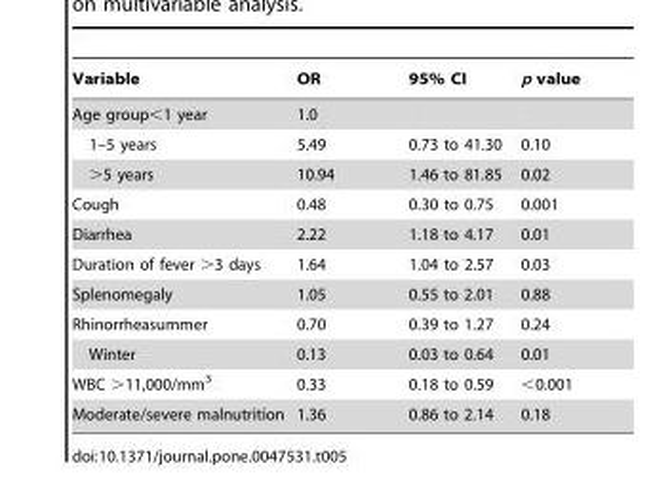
<table><thead><tr><td>Variable</td><td>OR</td><td>95% CI</td><td>p value</td></tr></thead><tbody><tr><td>Age group&lt;1 year</td><td>1.0</td><td></td><td></td></tr><tr><td>1–5 years</td><td>5.49</td><td>0.73 to 41.30</td><td>0.10</td></tr><tr><td>&gt;5 years</td><td>10.94</td><td>1.46 to 81.85</td><td>0.02</td></tr><tr><td>Cough</td><td>0.48</td><td>0.30 to 0.75</td><td>0.001</td></tr><tr><td>Diarrhea</td><td>2.22</td><td>1.18 to 4.17</td><td>0.01</td></tr><tr><td>Duration of fever &gt;3 days</td><td>1.64</td><td>1.04 to 2.57</td><td>0.03</td></tr><tr><td>Splenomegaly</td><td>1.05</td><td>0.55 to 2.01</td><td>0.88</td></tr><tr><td>Rhinorrheasummer</td><td>0.70</td><td>0.39 to 1.27</td><td>0.24</td></tr><tr><td>Winter</td><td>0.13</td><td>0.03 to 0.64</td><td>0.01</td></tr><tr><td>WBC &gt;11,000/mm<sup>3</sup></td><td>0.33</td><td>0.18 to 0.59</td><td>&lt;0.001</td></tr><tr><td>Moderate/severe malnutrition</td><td>1.36</td><td>0.86 to 2.14</td><td>0.18</td></tr></tbody></table>